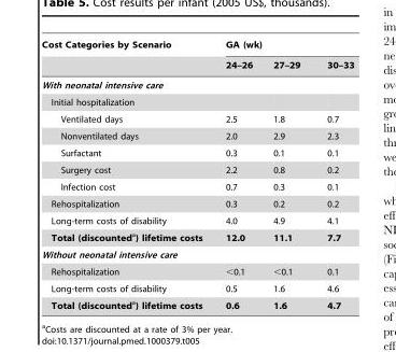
<table><thead><tr><td rowspan="2">Cost Categories by Scenario</td><td colspan="3">GA (wk)</td></tr><tr><td>24–26</td><td>27–29</td><td>30–33</td></tr></thead><tbody><tr><td colspan="4">With neonatal intensive care</td></tr><tr><td colspan="4">Initial hospitalization</td></tr><tr><td>Ventilated days</td><td>2.5</td><td>1.8</td><td>0.7</td></tr><tr><td>Nonventilated days</td><td>2.0</td><td>2.9</td><td>2.3</td></tr><tr><td>Surfactant</td><td>0.3</td><td>0.1</td><td>0.1</td></tr><tr><td>Surgery cost</td><td>2.2</td><td>0.8</td><td>0.2</td></tr><tr><td>Infection cost</td><td>0.7</td><td>0.3</td><td>0.1</td></tr><tr><td>Rehospitalization</td><td>0.3</td><td>0.2</td><td>0.2</td></tr><tr><td>Long-term costs of disability</td><td>4.0</td><td>4.9</td><td>4.1</td></tr><tr><td>Total (discounteda) lifetime costs</td><td>12.0</td><td>11.1</td><td>7.7</td></tr><tr><td colspan="4">Without neonatal intensive care</td></tr><tr><td>Rehospitalization</td><td>&lt;0.1</td><td>&lt;0.1</td><td>0.1</td></tr><tr><td>Long-term costs of disability</td><td>0.5</td><td>1.6</td><td>4.6</td></tr><tr><td>Total (discounteda) lifetime costs</td><td>0.6</td><td>1.6</td><td>4.7</td></tr></tbody></table>